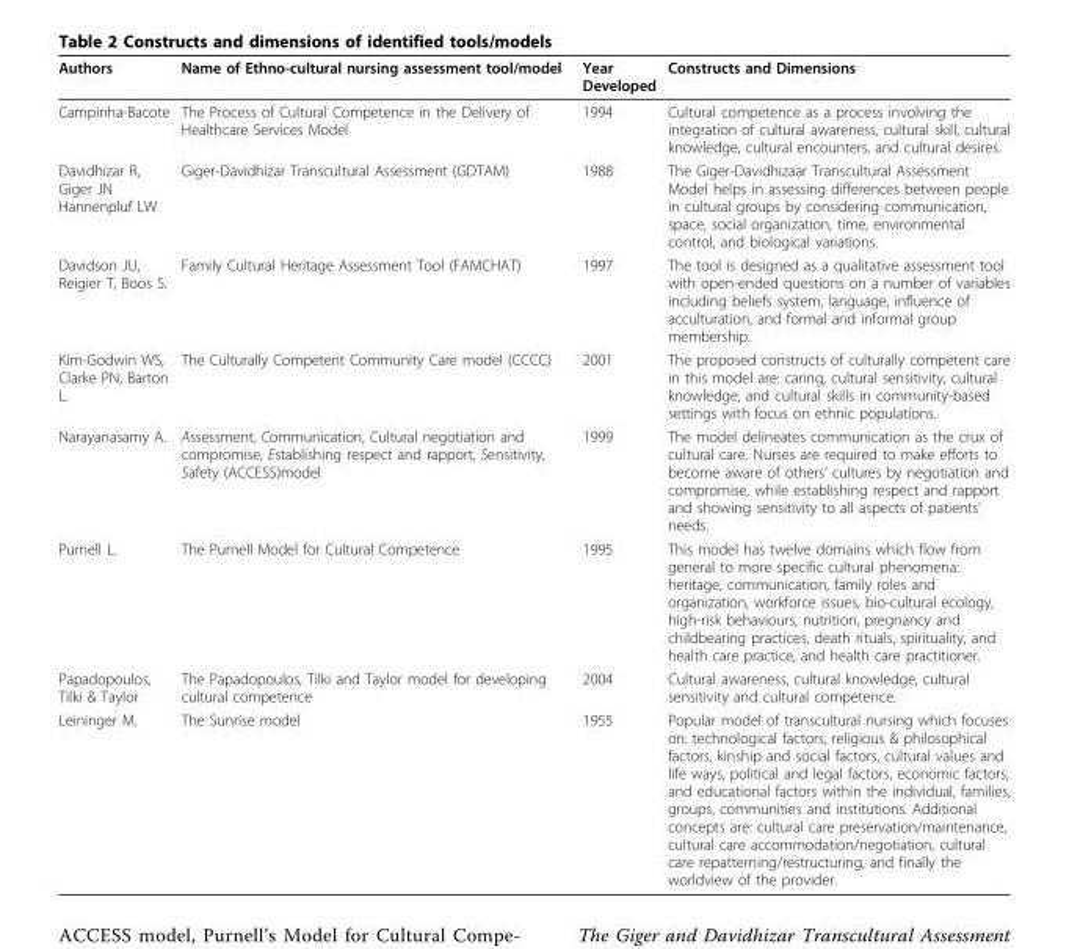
<table><thead><tr><td>Authors</td><td>Name of Ethno-cultural nursing assessment tool/model</td><td>Year Developed</td><td>Constructs and Dimensions</td></tr></thead><tbody><tr><td>Campinha-Bacote</td><td>The Process of Cultural Competence in the Delivery of Healthcare Services Model</td><td>1994</td><td>Cultural competence as a process involving the integration of cultural awareness, cultural skill, cultural knowledge, cultural encounters, and cultural desires.</td></tr><tr><td>Davidhizar R, Giger JN Hannenpluf LW</td><td>Giger-Davidhizar Transcultural Assessment (GDTAM)</td><td>1988</td><td>The Giger-Davidhizaar Transcultural Assessment Model helps in assessing differences between people in cultural groups by considering communication, space, social organization, time, environmental control, and biological variations.</td></tr><tr><td>Davidson JU, Reigier T, Boos S.</td><td>Family Cultural Heritage Assessment Tool (FAMCHAT)</td><td>1997</td><td>The tool is designed as a qualitative assessment tool with open-ended questions on a number of variables including beliefs system, language, influence of acculturation, and formal and informal group membership.</td></tr><tr><td>Kim-Godwin WS, Clarke PN, Barton L.</td><td>The Culturally Competent Community Care model (CCCC)</td><td>2001</td><td>The proposed constructs of culturally competent care in this model are: caring, cultural sensitivity, cultural knowledge, and cultural skills in community-based settings with focus on ethnic populations.</td></tr><tr><td>Narayanasamy A.</td><td>Assessment, Communication, Cultural negotiation and compromise, Establishing respect and rapport, Sensitivity, Safety (ACCESS)model</td><td>1999</td><td>The model delineates communication as the crux of cultural care. Nurses are required to make efforts to become aware of others’ cultures by negotiation and compromise, while establishing respect and rapport and showing sensitivity to all aspects of patients’ needs.</td></tr><tr><td>Purnell L.</td><td>The Purnell Model for Cultural Competence</td><td>1995</td><td>This model has twelve domains which flow from general to more specific cultural phenomena: heritage, communication, family roles and organization, workforce issues, bio-cultural ecology, high-risk behaviours, nutrition, pregnancy and childbearing practices, death rituals, spirituality, and health care practice, and health care practitioner.</td></tr><tr><td>Papadopoulos, Tilki &amp; Taylor</td><td>The Papadopoulos, Tilki and Taylor model for developing cultural competence</td><td>2004</td><td>Cultural awareness, cultural knowledge, cultural sensitivity and cultural competence.</td></tr><tr><td>Leininger M.</td><td>The Sunrise model</td><td>1955</td><td>Popular model of transcultural nursing which focuses on: technological factors, religious &amp; philosophical factors, kinship and social factors, cultural values and life ways, political and legal factors, economic factors, and educational factors within the individual, families, groups, communities and institutions. Additional concepts are: cultural care preservation/maintenance, cultural care accommodation/negotiation, cultural care repatterning/restructuring, and finally the worldview of the provider.</td></tr></tbody></table>